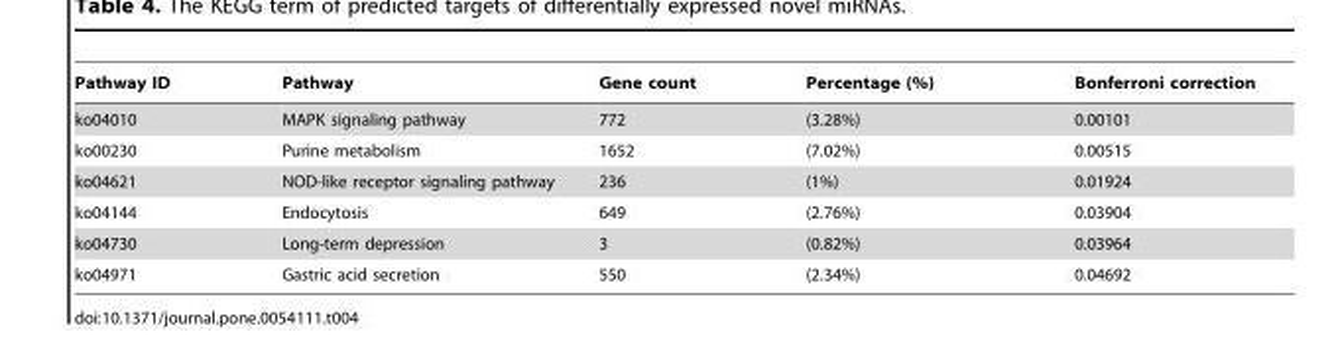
<table><thead><tr><td>Pathway ID</td><td>Pathway</td><td>Gene count</td><td>Percentage (%)</td><td>Bonferroni correction</td></tr></thead><tbody><tr><td>ko04010</td><td>MAPK signaling pathway</td><td>772</td><td>(3.28%)</td><td>0.00101</td></tr><tr><td>ko00230</td><td>Purine metabolism</td><td>1652</td><td>(7.02%)</td><td>0.00515</td></tr><tr><td>ko04621</td><td>NOD-like receptor signaling pathway</td><td>236</td><td>(1%)</td><td>0.01924</td></tr><tr><td>ko04144</td><td>Endocytosis</td><td>649</td><td>(2.76%)</td><td>0.03904</td></tr><tr><td>ko04730</td><td>Long-term depression</td><td>3</td><td>(0.82%)</td><td>0.03964</td></tr><tr><td>ko04971</td><td>Gastric acid secretion</td><td>550</td><td>(2.34%)</td><td>0.04692</td></tr></tbody></table>